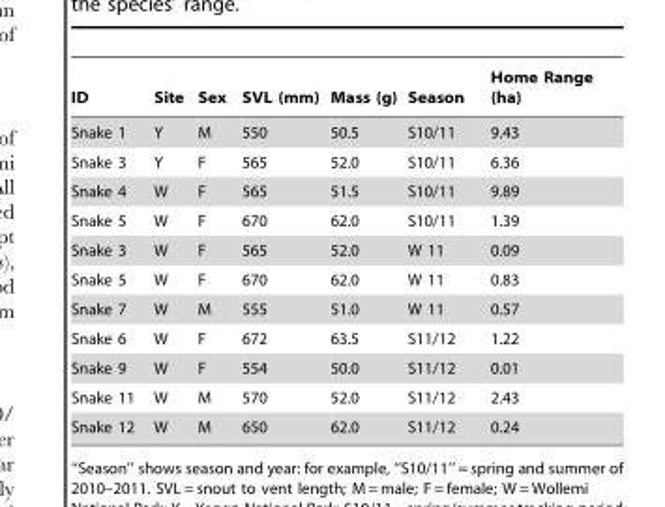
<table><thead><tr><td>ID</td><td>Site</td><td>Sex</td><td>SVL (mm)</td><td>Mass (g)</td><td>Season</td><td>Home Range (ha)</td></tr></thead><tbody><tr><td>Snake 1</td><td>Y</td><td>M</td><td>550</td><td>50.5</td><td>S10/11</td><td>9.43</td></tr><tr><td>Snake 3</td><td>Y</td><td>F</td><td>565</td><td>52.0</td><td>S10/11</td><td>6.36</td></tr><tr><td>Snake 4</td><td>W</td><td>F</td><td>565</td><td>51.5</td><td>S10/11</td><td>9.89</td></tr><tr><td>Snake 5</td><td>W</td><td>F</td><td>670</td><td>62.0</td><td>S10/11</td><td>1.39</td></tr><tr><td>Snake 3</td><td>W</td><td>F</td><td>565</td><td>52.0</td><td>W 11</td><td>0.09</td></tr><tr><td>Snake 5</td><td>W</td><td>F</td><td>670</td><td>62.0</td><td>W 11</td><td>0.83</td></tr><tr><td>Snake 7</td><td>W</td><td>M</td><td>555</td><td>51.0</td><td>W 11</td><td>0.57</td></tr><tr><td>Snake 6</td><td>W</td><td>F</td><td>672</td><td>63.5</td><td>S11/12</td><td>1.22</td></tr><tr><td>Snake 9</td><td>W</td><td>F</td><td>554</td><td>50.0</td><td>S11/12</td><td>0.01</td></tr><tr><td>Snake 11</td><td>W</td><td>M</td><td>570</td><td>52.0</td><td>S11/12</td><td>2.43</td></tr><tr><td>Snake 12</td><td>W</td><td>M</td><td>650</td><td>62.0</td><td>S11/12</td><td>0.24</td></tr></tbody></table>